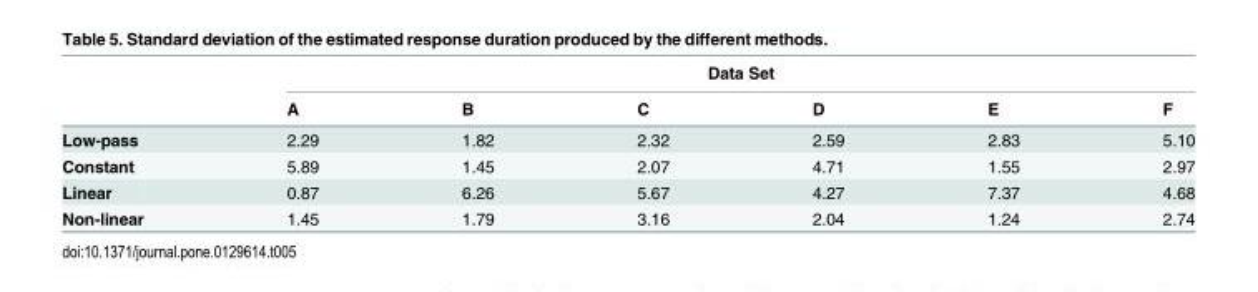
<table><thead><tr><td rowspan="2"></td><td colspan="6">Data Set</td></tr><tr><td>A</td><td>B</td><td>C</td><td>D</td><td>E</td><td>F</td></tr></thead><tbody><tr><td>Low-pass</td><td>2.29</td><td>1.82</td><td>2.32</td><td>2.59</td><td>2.83</td><td>5.10</td></tr><tr><td>Constant</td><td>5.89</td><td>1.45</td><td>2.07</td><td>4.71</td><td>1.55</td><td>2.97</td></tr><tr><td>Linear</td><td>0.87</td><td>6.26</td><td>5.67</td><td>4.27</td><td>7.37</td><td>4.68</td></tr><tr><td>Non-linear</td><td>1.45</td><td>1.79</td><td>3.16</td><td>2.04</td><td>1.24</td><td>2.74</td></tr></tbody></table>